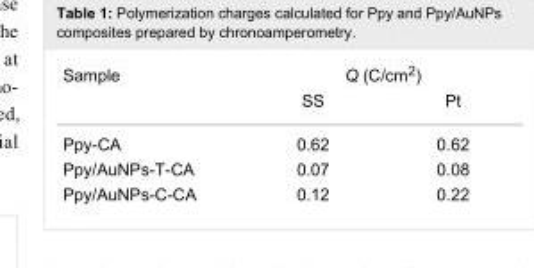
<table><tbody><tr><td rowspan="2">Sample</td><td colspan="2">Q (C/cm<sup>2</sup>)</td></tr><tr><td>SS</td><td>Pt</td></tr><tr><td>Ppy-CA</td><td>0.62</td><td>0.62</td></tr><tr><td>Ppy/AuNPs-T-CA</td><td>0.07</td><td>0.08</td></tr><tr><td>Ppy/AuNPs-C-CA</td><td>0.12</td><td>0.22</td></tr></tbody></table>